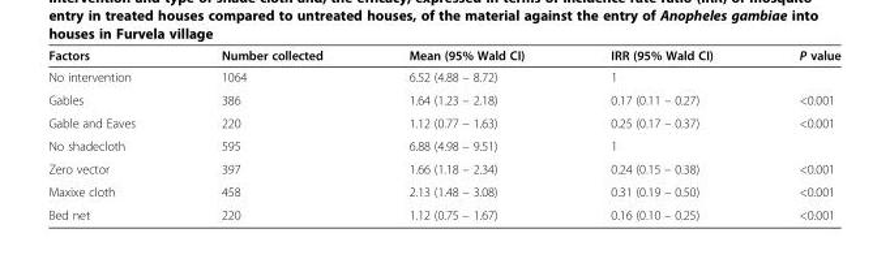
<table><thead><tr><td>Factors</td><td>Number collected</td><td>Mean (95% Wald CI)</td><td>IRR (95% Wald CI)</td><td>P value</td></tr></thead><tbody><tr><td>No intervention</td><td>1064</td><td>6.52 (4.88 – 8.72)</td><td>1</td><td></td></tr><tr><td>Gables</td><td>386</td><td>1.64 (1.23 – 2.18)</td><td>0.17 (0.11 – 0.27)</td><td>&lt;0.001</td></tr><tr><td>Gable and Eaves</td><td>220</td><td>1.12 (0.77 – 1.63)</td><td>0.25 (0.17 – 0.37)</td><td>&lt;0.001</td></tr><tr><td>No shadecloth</td><td>595</td><td>6.88 (4.98 – 9.51)</td><td>1</td><td></td></tr><tr><td>Zero vector</td><td>397</td><td>1.66 (1.18 – 2.34)</td><td>0.24 (0.15 – 0.38)</td><td>&lt;0.001</td></tr><tr><td>Maxixe cloth</td><td>458</td><td>2.13 (1.48 – 3.08)</td><td>0.31 (0.19 – 0.50)</td><td>&lt;0.001</td></tr><tr><td>Bed net</td><td>220</td><td>1.12 (0.75 – 1.67)</td><td>0.16 (0.10 – 0.25)</td><td>&lt;0.001</td></tr></tbody></table>